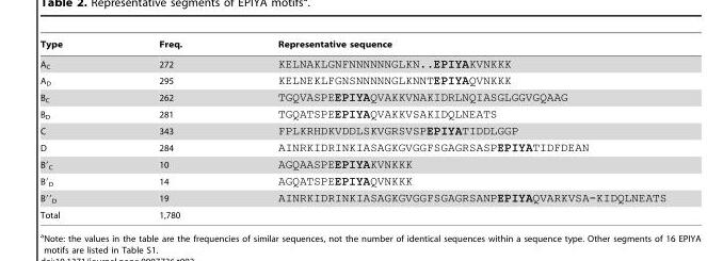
<table><thead><tr><td>Type</td><td>Freq.</td><td>Representative sequence</td></tr></thead><tbody><tr><td>A<sub>C</sub></td><td>272</td><td>KELNAKLGNFNNNNNNGLKN..EEPIYAKVNKKK</td></tr><tr><td>A<sub>D</sub></td><td>295</td><td>KELNEKLFGNSNNNNNGLKNNTEEPIYAQVNKKK</td></tr><tr><td>B<sub>C</sub></td><td>262</td><td>TGQVASPEEEPIYAQVAKKVNAKIDRLNQIASGLGGVGQAAG</td></tr><tr><td>B<sub>D</sub></td><td>281</td><td>TGQATSPEEEPIYAQVAKKVSAKIDQLNEATS</td></tr><tr><td>C</td><td>343</td><td>FPLKRHDKVDDLSKVGRSVSPEEPIYATIDDLGGP</td></tr><tr><td>D</td><td>284</td><td>AINRKIDRINKIASAGKGVGGFSGAGRSASPEEPIYATIDFDEAN</td></tr><tr><td>B′<sub>C</sub></td><td>10</td><td>AGQAASPEEEPIYAKVNKKK</td></tr><tr><td>B′<sub>D</sub></td><td>14</td><td>AGQATSPEEEPIYAQVNKKK</td></tr><tr><td>B′′<sub>D</sub></td><td>19</td><td>AINRKIDRINKIASAGKGVGGFSGAGRSANPEEPIYAQVARKVSA-KIDQLNEATS</td></tr><tr><td>Total</td><td>1,780</td><td></td></tr></tbody></table>